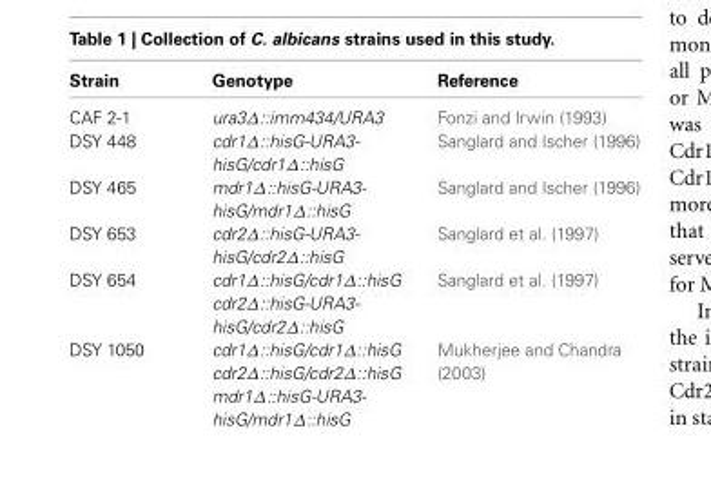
<table><thead><tr><td>Strain</td><td>Genotype</td><td>Reference</td></tr></thead><tbody><tr><td>CAF 2-1</td><td>ura3∆::imm434/URA3</td><td>Fonzi and Irwin (1993)</td></tr><tr><td>DSY 448</td><td>cdr1∆::hisG-URA3- hisG/cdr1∆::hisG</td><td>Sanglard and Ischer (1996)</td></tr><tr><td>DSY 465</td><td>mdr1∆::hisG-URA3- hisG/mdr1∆::hisG</td><td>Sanglard and Ischer (1996)</td></tr><tr><td>DSY 653</td><td>cdr2∆::hisG-URA3- hisG/cdr2∆::hisG</td><td>Sanglard et al. (1997)</td></tr><tr><td>DSY 654</td><td>cdr1∆::hisG/cdr1∆::hisG cdr2∆::hisG-URA3- hisG/cdr2∆::hisG</td><td>Sanglard et al. (1997)</td></tr><tr><td>DSY 1050</td><td>cdr1∆::hisG/cdr1∆::hisG cdr2∆::hisG/cdr2∆::hisG mdr1∆::hisG-URA3- hisG/mdr1∆::hisG</td><td>Mukherjee and Chandra (2003)</td></tr></tbody></table>